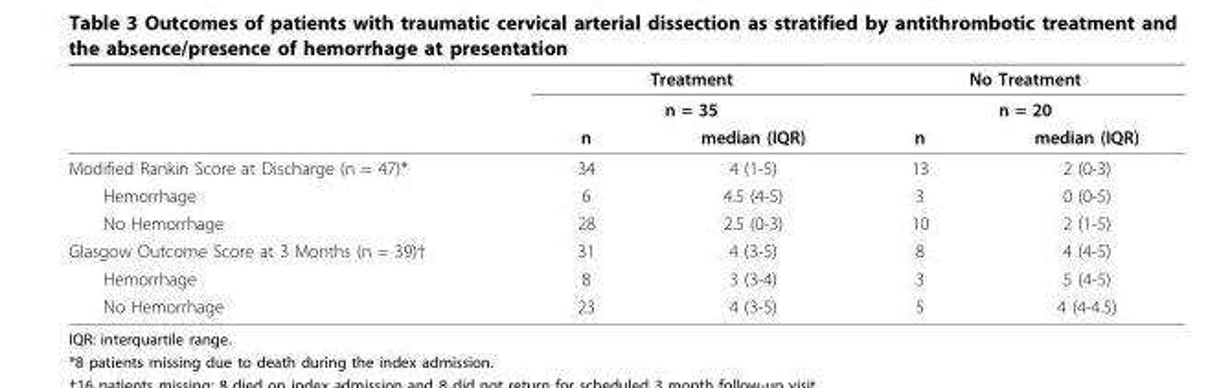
<table><thead><tr><td rowspan="3"></td><td rowspan="2" colspan="2">Treatment n = 35</td><td rowspan="2" colspan="2">No Treatment n = 20</td></tr><tr></tr><tr><td>n</td><td>median (IQR)</td><td>n</td><td>median (IQR)</td></tr></thead><tbody><tr><td>Modified Rankin Score at Discharge (n = 47)*</td><td>34</td><td>4 (1-5)</td><td>13</td><td>2 (0-3)</td></tr><tr><td>Hemorrhage</td><td>6</td><td>4.5 (4-5)</td><td>3</td><td>0 (0-5)</td></tr><tr><td>No Hemorrhage</td><td>28</td><td>2.5 (0-3)</td><td>10</td><td>2 (1-5)</td></tr><tr><td>Glasgow Outcome Score at 3 Months (n = 39)†</td><td>31</td><td>4 (3-5)</td><td>8</td><td>4 (4-5)</td></tr><tr><td>Hemorrhage</td><td>8</td><td>3 (3-4)</td><td>3</td><td>5 (4-5)</td></tr><tr><td>No Hemorrhage</td><td>23</td><td>4 (3-5)</td><td>5</td><td>4 (4-4.5)</td></tr></tbody></table>